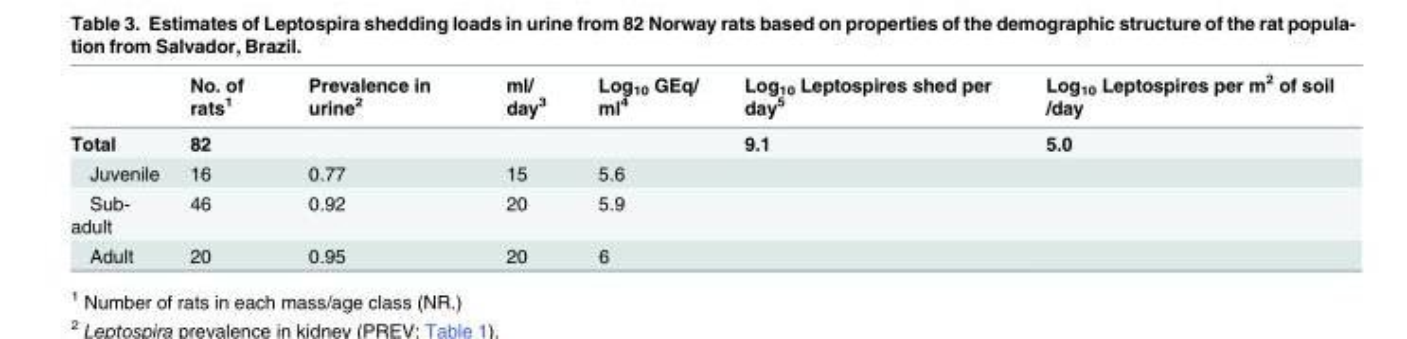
<table><thead><tr><td></td><td>No. of rats<sup>1</sup></td><td>Prevalence in urine<sup>2</sup></td><td>ml/ day<sup>3</sup></td><td>Log<sub>10</sub> GEq/ ml<sup>4</sup></td><td>Log<sub>10</sub> Leptospires shed per day<sup>5</sup></td><td>Log<sub>10</sub> Leptospires per m<sup>2</sup> of soil /day</td></tr></thead><tbody><tr><td>Total</td><td>82</td><td></td><td></td><td></td><td>9.1</td><td>5.0</td></tr><tr><td>Juvenile</td><td>16</td><td>0.77</td><td>15</td><td>5.6</td><td></td><td></td></tr><tr><td>Sub- adult</td><td>46</td><td>0.92</td><td>20</td><td>5.9</td><td></td><td></td></tr><tr><td>Adult</td><td>20</td><td>0.95</td><td>20</td><td>6</td><td></td><td></td></tr></tbody></table>